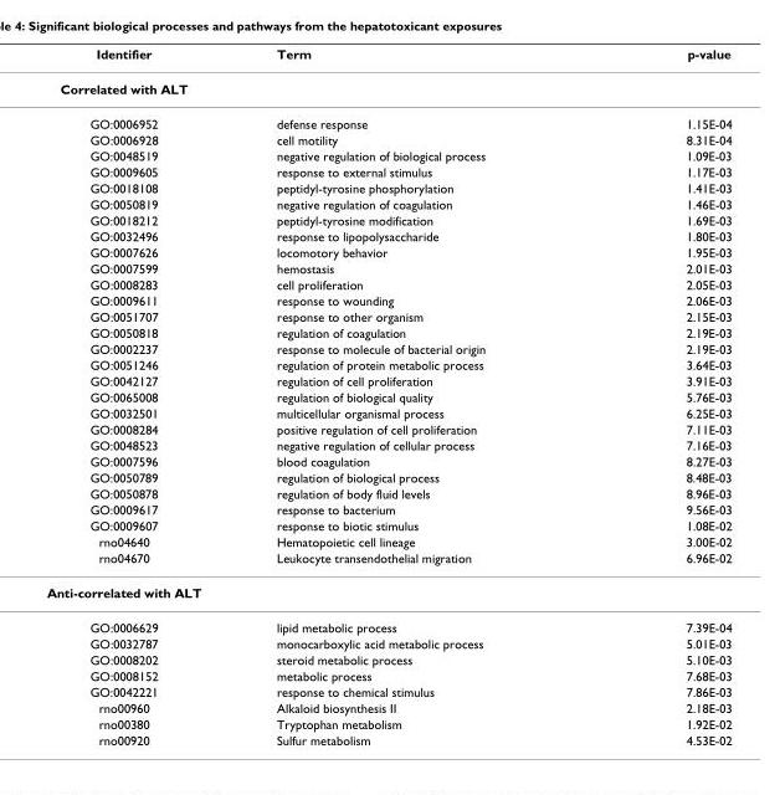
<table><thead><tr><td>Identifier</td><td>Term</td><td>p-value</td></tr></thead><tbody><tr><td colspan="3">Correlated with ALT</td></tr><tr><td>GO:0006952</td><td>defense response</td><td>1.15E-04</td></tr><tr><td>GO:0006928</td><td>cell motility</td><td>8.31E-04</td></tr><tr><td>GO:0048519</td><td>negative regulation of biological process</td><td>1.09E-03</td></tr><tr><td>GO:0009605</td><td>response to external stimulus</td><td>1.17E-03</td></tr><tr><td>GO:0018108</td><td>peptidyl-tyrosine phosphorylation</td><td>1.41E-03</td></tr><tr><td>GO:0050819</td><td>negative regulation of coagulation</td><td>1.46E-03</td></tr><tr><td>GO:0018212</td><td>peptidyl-tyrosine modification</td><td>1.69E-03</td></tr><tr><td>GO:0032496</td><td>response to lipopolysaccharide</td><td>1.80E-03</td></tr><tr><td>GO:0007626</td><td>locomotory behavior</td><td>1.95E-03</td></tr><tr><td>GO:0007599</td><td>hemostasis</td><td>2.01E-03</td></tr><tr><td>GO:0008283</td><td>cell proliferation</td><td>2.05E-03</td></tr><tr><td>GO:0009611</td><td>response to wounding</td><td>2.06E-03</td></tr><tr><td>GO:0051707</td><td>response to other organism</td><td>2.15E-03</td></tr><tr><td>GO:0050818</td><td>regulation of coagulation</td><td>2.19E-03</td></tr><tr><td>GO:0002237</td><td>response to molecule of bacterial origin</td><td>2.19E-03</td></tr><tr><td>GO:0051246</td><td>regulation of protein metabolic process</td><td>3.64E-03</td></tr><tr><td>GO:0042127</td><td>regulation of cell proliferation</td><td>3.91E-03</td></tr><tr><td>GO:0065008</td><td>regulation of biological quality</td><td>5.76E-03</td></tr><tr><td>GO:0032501</td><td>multicellular organismal process</td><td>6.25E-03</td></tr><tr><td>GO:0008284</td><td>positive regulation of cell proliferation</td><td>7.11E-03</td></tr><tr><td>GO:0048523</td><td>negative regulation of cellular process</td><td>7.16E-03</td></tr><tr><td>GO:0007596</td><td>blood coagulation</td><td>8.27E-03</td></tr><tr><td>GO:0050789</td><td>regulation of biological process</td><td>8.48E-03</td></tr><tr><td>GO:0050878</td><td>regulation of body fluid levels</td><td>8.96E-03</td></tr><tr><td>GO:0009617</td><td>response to bacterium</td><td>9.56E-03</td></tr><tr><td>GO:0009607</td><td>response to biotic stimulus</td><td>1.08E-02</td></tr><tr><td>rno04640</td><td>Hematopoietic cell lineage</td><td>3.00E-02</td></tr><tr><td>rno04670</td><td>Leukocyte transendothelial migration</td><td>6.96E-02</td></tr><tr><td colspan="3">Anti-correlated with ALT</td></tr><tr><td>GO:0006629</td><td>lipid metabolic process</td><td>7.39E-04</td></tr><tr><td>GO:0032787</td><td>monocarboxylic acid metabolic process</td><td>5.01E-03</td></tr><tr><td>GO:0008202</td><td>steroid metabolic process</td><td>5.10E-03</td></tr><tr><td>GO:0008152</td><td>metabolic process</td><td>7.68E-03</td></tr><tr><td>GO:0042221</td><td>response to chemical stimulus</td><td>7.86E-03</td></tr><tr><td>rno00960</td><td>Alkaloid biosynthesis II</td><td>2.18E-03</td></tr><tr><td>rno00380</td><td>Tryptophan metabolism</td><td>1.92E-02</td></tr><tr><td>rno00920</td><td>Sulfur metabolism</td><td>4.53E-02</td></tr></tbody></table>